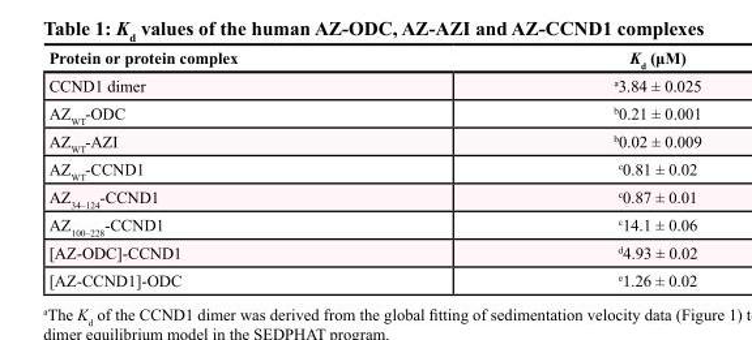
<table><thead><tr><td>Protein or protein complex</td><td>K<sub>d</sub> (μM)</td></tr></thead><tbody><tr><td>CCND1 dimer</td><td><sup>a</sup>3.84 ± 0.025</td></tr><tr><td>AZ<sub>WT</sub>-ODC</td><td><sup>b</sup>0.21 ± 0.001</td></tr><tr><td>AZ<sub>WT</sub>-AZI</td><td><sup>b</sup>0.02 ± 0.009</td></tr><tr><td>AZ<sub>WT</sub>-CCND1</td><td><sup>c</sup>0.81 ± 0.02</td></tr><tr><td>AZ<sub>34–124</sub>-CCND1</td><td><sup>c</sup>0.87 ± 0.01</td></tr><tr><td>AZ<sub>100–228</sub>-CCND1</td><td><sup>c</sup>14.1 ± 0.06</td></tr><tr><td>[AZ-ODC]-CCND1</td><td><sup>d</sup>4.93 ± 0.02</td></tr><tr><td>[AZ-CCND1]-ODC</td><td><sup>e</sup>1.26 ± 0.02</td></tr></tbody></table>